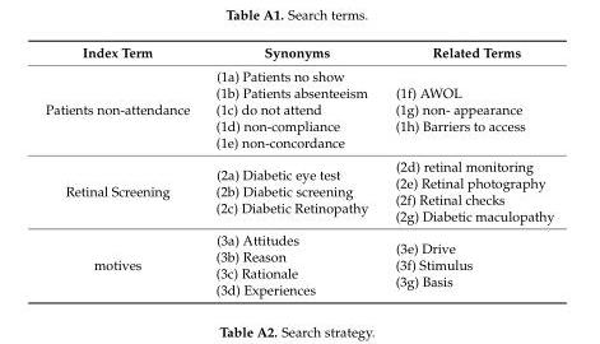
<table><thead><tr><td>Index Term</td><td>Synonyms</td><td>Related Terms</td></tr></thead><tbody><tr><td>Patients non-attendance</td><td>(1a) Patients no show (1b) Patients absenteeism (1c) do not attend (1d) non-compliance (1e) non-concordance</td><td>(1f) AWOL (1g) non- appearance (1h) Barriers to access</td></tr><tr><td>Retinal Screening</td><td>(2a) Diabetic eye test (2b) Diabetic screening (2c) Diabetic Retinopathy</td><td>(2d) retinal monitoring (2e) Retinal photography (2f) Retinal checks (2g) Diabetic maculopathy</td></tr><tr><td>motives</td><td>(3a) Attitudes (3b) Reason (3c) Rationale (3d) Experiences</td><td>(3e) Drive (3f) Stimulus (3g) Basis</td></tr></tbody></table>